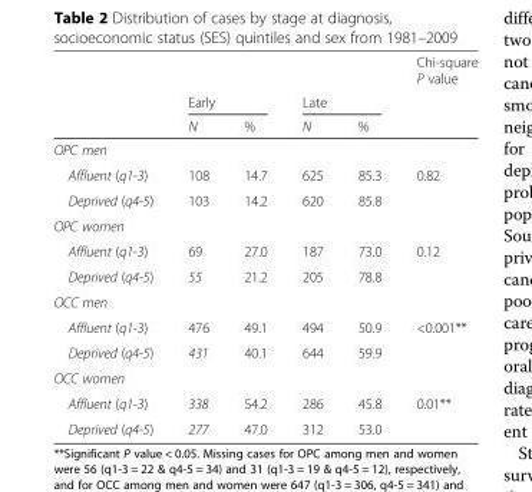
<table><thead><tr><td rowspan="3"></td><td></td><td></td><td></td><td></td><td rowspan="3">Chi-square P value</td></tr><tr><td colspan="2">Early</td><td colspan="2">Late</td></tr><tr><td>N</td><td>%</td><td>N</td><td>%</td></tr></thead><tbody><tr><td colspan="6">OPC men</td></tr><tr><td>Affluent (q1-3)</td><td>108</td><td>14.7</td><td>625</td><td>85.3</td><td rowspan="2">0.82</td></tr><tr><td>Deprived (q4-5)</td><td>103</td><td>14.2</td><td>620</td><td>85.8</td></tr><tr><td colspan="6">OPC women</td></tr><tr><td>Affluent (q1-3)</td><td>69</td><td>27.0</td><td>187</td><td>73.0</td><td rowspan="2">0.12</td></tr><tr><td>Deprived (q4-5)</td><td>55</td><td>21.2</td><td>205</td><td>78.8</td></tr><tr><td colspan="6">OCC men</td></tr><tr><td>Affluent (q1-3)</td><td>476</td><td>49.1</td><td>494</td><td>50.9</td><td rowspan="2">&lt;0.001**</td></tr><tr><td>Deprived (q4-5)</td><td>431</td><td>40.1</td><td>644</td><td>59.9</td></tr><tr><td colspan="6">OCC women</td></tr><tr><td>Affluent (q1-3)</td><td>338</td><td>54.2</td><td>286</td><td>45.8</td><td rowspan="2">0.01**</td></tr><tr><td>Deprived (q4-5)</td><td>277</td><td>47.0</td><td>312</td><td>53.0</td></tr></tbody></table>